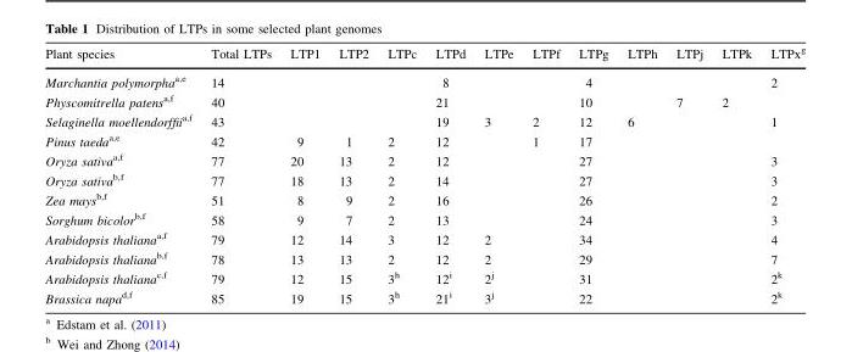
<table><thead><tr><td>Plant species</td><td>Total LTPs</td><td>LTP1</td><td>LTP2</td><td>LTPc</td><td>LTPd</td><td>LTPe</td><td>LTPf</td><td>LTPg</td><td>LTPh</td><td>LTPj</td><td>LTPk</td><td>LTPx<sup>g</sup></td></tr></thead><tbody><tr><td>Marchantia polymorpha<sup>a,e</sup></td><td>14</td><td></td><td></td><td></td><td>8</td><td></td><td></td><td>4</td><td></td><td></td><td></td><td>2</td></tr><tr><td>Physcomitrella patens<sup>a,f</sup></td><td>40</td><td></td><td></td><td></td><td>21</td><td></td><td></td><td>10</td><td></td><td>7</td><td>2</td><td></td></tr><tr><td>Selaginella moellendorffii<sup>a,f</sup></td><td>43</td><td></td><td></td><td></td><td>19</td><td>3</td><td>2</td><td>12</td><td>6</td><td></td><td></td><td>1</td></tr><tr><td>Pinus taeda<sup>a,e</sup></td><td>42</td><td>9</td><td>1</td><td>2</td><td>12</td><td></td><td>1</td><td>17</td><td></td><td></td><td></td><td></td></tr><tr><td>Oryza sativa<sup>a,f</sup></td><td>77</td><td>20</td><td>13</td><td>2</td><td>12</td><td></td><td></td><td>27</td><td></td><td></td><td></td><td>3</td></tr><tr><td>Oryza sativa<sup>b,f</sup></td><td>77</td><td>18</td><td>13</td><td>2</td><td>14</td><td></td><td></td><td>27</td><td></td><td></td><td></td><td>3</td></tr><tr><td>Zea mays<sup>b,f</sup></td><td>51</td><td>8</td><td>9</td><td>2</td><td>16</td><td></td><td></td><td>26</td><td></td><td></td><td></td><td>2</td></tr><tr><td>Sorghum bicolor<sup>b,f</sup></td><td>58</td><td>9</td><td>7</td><td>2</td><td>13</td><td></td><td></td><td>24</td><td></td><td></td><td></td><td>3</td></tr><tr><td>Arabidopsis thaliana<sup>a,f</sup></td><td>79</td><td>12</td><td>14</td><td>3</td><td>12</td><td>2</td><td></td><td>34</td><td></td><td></td><td></td><td>4</td></tr><tr><td>Arabidopsis thaliana<sup>b,f</sup></td><td>78</td><td>13</td><td>13</td><td>2</td><td>12</td><td>2</td><td></td><td>29</td><td></td><td></td><td></td><td>7</td></tr><tr><td>Arabidopsis thaliana<sup>c,f</sup></td><td>79</td><td>12</td><td>15</td><td>3<sup>h</sup></td><td>12<sup>i</sup></td><td>2<sup>j</sup></td><td></td><td>31</td><td></td><td></td><td></td><td>2<sup>k</sup></td></tr><tr><td>Brassica napa<sup>d,f</sup></td><td>85</td><td>19</td><td>15</td><td>3<sup>h</sup></td><td>21<sup>i</sup></td><td>3<sup>j</sup></td><td></td><td>22</td><td></td><td></td><td></td><td>2<sup>k</sup></td></tr></tbody></table>